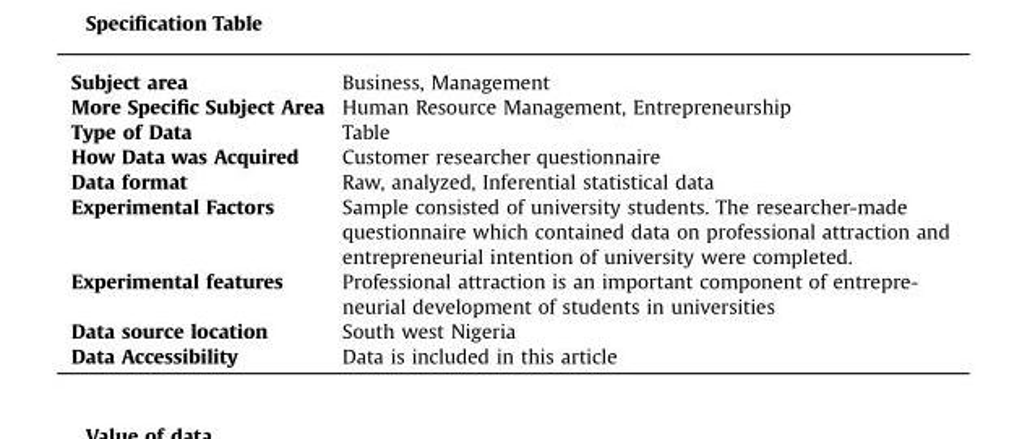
<table><tbody><tr><td>Subject area</td><td>Business, Management</td></tr><tr><td>More Specific Subject Area</td><td>Human Resource Management, Entrepreneurship</td></tr><tr><td>Type of Data</td><td>Table</td></tr><tr><td>How Data was Acquired</td><td>Customer researcher questionnaire</td></tr><tr><td>Data format</td><td>Raw, analyzed, Inferential statistical data</td></tr><tr><td>Experimental Factors</td><td>Sample consisted of university students. The researcher-made questionnaire which contained data on professional attraction and entrepreneurial intention of university were completed.</td></tr><tr><td>Experimental features</td><td>Professional attraction is an important component of entrepre- neurial development of students in universities</td></tr><tr><td>Data source location</td><td>South west Nigeria</td></tr><tr><td>Data Accessibility</td><td>Data is included in this article</td></tr></tbody></table>